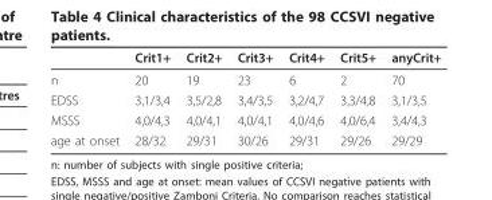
<table><thead><tr><td></td><td>Crit1+</td><td>Crit2+</td><td>Crit3+</td><td>Crit4+</td><td>Crit5+</td><td>anyCrit+</td></tr></thead><tbody><tr><td>n</td><td>20</td><td>19</td><td>23</td><td>6</td><td>2</td><td>70</td></tr><tr><td>EDSS</td><td>3,1/3,4</td><td>3,5/2,8</td><td>3,4/3,5</td><td>3,2/4,7</td><td>3,3/4,8</td><td>3,1/3,5</td></tr><tr><td>MSSS</td><td>4,0/4,3</td><td>4,0/4,1</td><td>4,0/4,1</td><td>4,0/4,6</td><td>4,0/6,4</td><td>3,4/4,3</td></tr><tr><td>age at onset</td><td>28/32</td><td>29/31</td><td>30/26</td><td>29/31</td><td>29/26</td><td>29/29</td></tr></tbody></table>